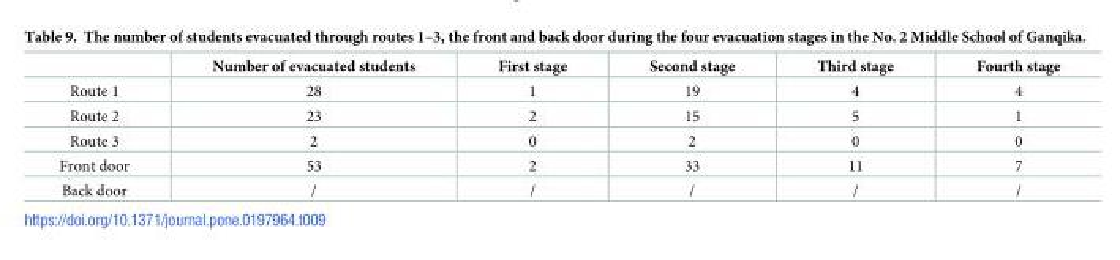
<table><thead><tr><td></td><td>Number of evacuated students</td><td>First stage</td><td>Second stage</td><td>Third stage</td><td>Fourth stage</td></tr></thead><tbody><tr><td>Route 1</td><td>28</td><td>1</td><td>19</td><td>4</td><td>4</td></tr><tr><td>Route 2</td><td>23</td><td>2</td><td>15</td><td>5</td><td>1</td></tr><tr><td>Route 3</td><td>2</td><td>0</td><td>2</td><td>0</td><td>0</td></tr><tr><td>Front door</td><td>53</td><td>2</td><td>33</td><td>11</td><td>7</td></tr><tr><td>Back door</td><td>/</td><td>/</td><td>/</td><td>/</td><td>/</td></tr></tbody></table>